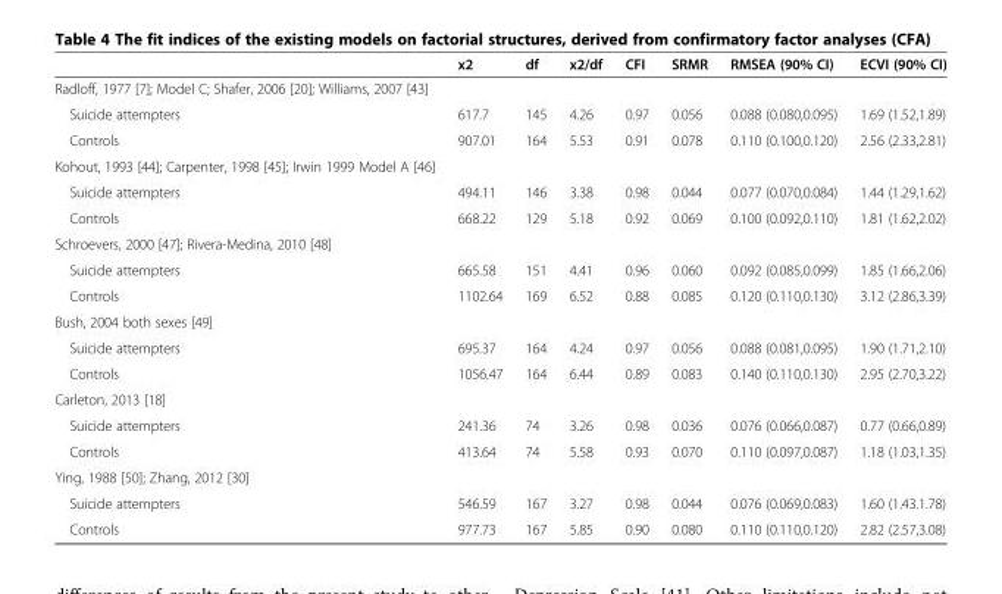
<table><thead><tr><td></td><td>x2</td><td>df</td><td>x2/df</td><td>CFI</td><td>SRMR</td><td>RMSEA (90% CI)</td><td>ECVI (90% CI)</td></tr></thead><tbody><tr><td colspan="8">Radloff, 1977 [7]; Model C; Shafer, 2006 [20]; Williams, 2007 [43]</td></tr><tr><td>Suicide attempters</td><td>617.7</td><td>145</td><td>4.26</td><td>0.97</td><td>0.056</td><td>0.088 (0.080,0.095)</td><td>1.69 (1.52,1.89)</td></tr><tr><td>Controls</td><td>907.01</td><td>164</td><td>5.53</td><td>0.91</td><td>0.078</td><td>0.110 (0.100,0.120)</td><td>2.56 (2.33,2.81)</td></tr><tr><td colspan="8">Kohout, 1993 [44]; Carpenter, 1998 [45]; Irwin 1999 Model A [46]</td></tr><tr><td>Suicide attempters</td><td>494.11</td><td>146</td><td>3.38</td><td>0.98</td><td>0.044</td><td>0.077 (0.070,0.084)</td><td>1.44 (1.29,1.62)</td></tr><tr><td>Controls</td><td>668.22</td><td>129</td><td>5.18</td><td>0.92</td><td>0.069</td><td>0.100 (0.092,0.110)</td><td>1.81 (1.62,2.02)</td></tr><tr><td colspan="8">Schroevers, 2000 [47]; Rivera-Medina, 2010 [48]</td></tr><tr><td>Suicide attempters</td><td>665.58</td><td>151</td><td>4.41</td><td>0.96</td><td>0.060</td><td>0.092 (0.085,0.099)</td><td>1.85 (1.66,2.06)</td></tr><tr><td>Controls</td><td>1102.64</td><td>169</td><td>6.52</td><td>0.88</td><td>0.085</td><td>0.120 (0.110,0.130)</td><td>3.12 (2.86,3.39)</td></tr><tr><td colspan="8">Bush, 2004 both sexes [49]</td></tr><tr><td>Suicide attempters</td><td>695.37</td><td>164</td><td>4.24</td><td>0.97</td><td>0.056</td><td>0.088 (0.081,0.095)</td><td>1.90 (1.71,2.10)</td></tr><tr><td>Controls</td><td>1056.47</td><td>164</td><td>6.44</td><td>0.89</td><td>0.083</td><td>0.140 (0.110,0.130)</td><td>2.95 (2.70,3.22)</td></tr><tr><td colspan="8">Carleton, 2013 [18]</td></tr><tr><td>Suicide attempters</td><td>241.36</td><td>74</td><td>3.26</td><td>0.98</td><td>0.036</td><td>0.076 (0.066,0.087)</td><td>0.77 (0.66,0.89)</td></tr><tr><td>Controls</td><td>413.64</td><td>74</td><td>5.58</td><td>0.93</td><td>0.070</td><td>0.110 (0.097,0.087)</td><td>1.18 (1.03,1.35)</td></tr><tr><td colspan="8">Ying, 1988 [50]; Zhang, 2012 [30]</td></tr><tr><td>Suicide attempters</td><td>546.59</td><td>167</td><td>3.27</td><td>0.98</td><td>0.044</td><td>0.076 (0.069,0.083)</td><td>1.60 (1.43.1.78)</td></tr><tr><td>Controls</td><td>977.73</td><td>167</td><td>5.85</td><td>0.90</td><td>0.080</td><td>0.110 (0.110,0.120)</td><td>2.82 (2.57,3.08)</td></tr></tbody></table>